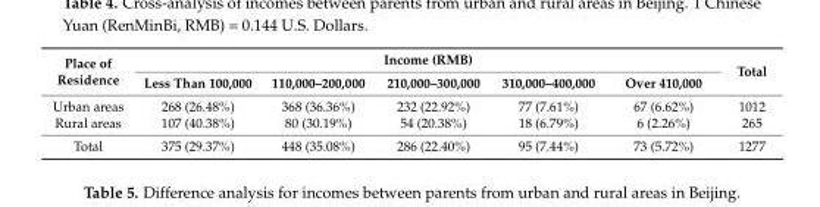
<table><thead><tr><td rowspan="2">Place of Residence</td><td colspan="5">Income (RMB)</td><td rowspan="2">Total</td></tr><tr><td>Less Than 100,000</td><td>110,000–200,000</td><td>210,000–300,000</td><td>310,000–400,000</td><td>Over 410,000</td></tr></thead><tbody><tr><td>Urban areas</td><td>268 (26.48%)</td><td>368 (36.36%)</td><td>232 (22.92%)</td><td>77 (7.61%)</td><td>67 (6.62%)</td><td>1012</td></tr><tr><td>Rural areas</td><td>107 (40.38%)</td><td>80 (30.19%)</td><td>54 (20.38%)</td><td>18 (6.79%)</td><td>6 (2.26%)</td><td>265</td></tr><tr><td>Total</td><td>375 (29.37%)</td><td>448 (35.08%)</td><td>286 (22.40%)</td><td>95 (7.44%)</td><td>73 (5.72%)</td><td>1277</td></tr></tbody></table>